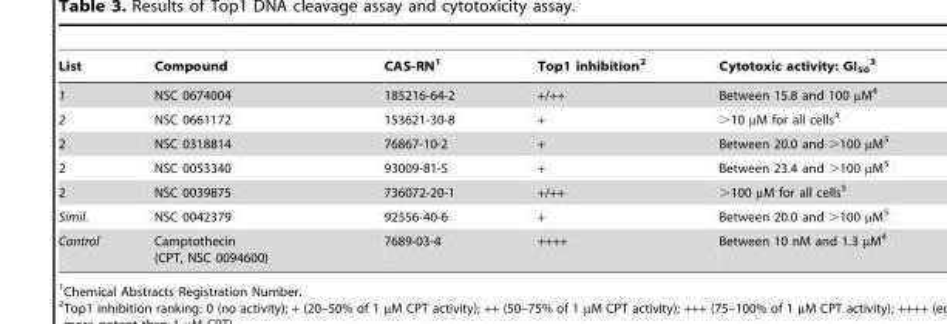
<table><thead><tr><td>List</td><td>Compound</td><td>CAS-RN<sup>1</sup></td><td>Top1 inhibition<sup>2</sup></td><td>Cytotoxic activity: GI<sub>50</sub> 3</td></tr></thead><tbody><tr><td>1</td><td>NSC 0674004</td><td>185216-64-2</td><td>+/++</td><td>Between 15.8 and 100 µM<sup>4</sup></td></tr><tr><td>2</td><td>NSC 0661172</td><td>153621-30-8</td><td>+</td><td>&gt;10 µM for all cells<sup>4</sup></td></tr><tr><td>2</td><td>NSC 0318814</td><td>76867-10-2</td><td>+</td><td>Between 20.0 and &gt;100 µM<sup>5</sup></td></tr><tr><td>2</td><td>NSC 0053340</td><td>93009-81-5</td><td>+</td><td>Between 23.4 and &gt;100 µM<sup>5</sup></td></tr><tr><td>2</td><td>NSC 0039875</td><td>736072-20-1</td><td>+/++</td><td>&gt;100 µM for all cells<sup>5</sup></td></tr><tr><td>Simil.</td><td>NSC 0042379</td><td>92556-40-6</td><td>+</td><td>Between 20.0 and &gt;100 µM<sup>5</sup></td></tr><tr><td>Control</td><td>Camptothecin (CPT, NSC 0094600)</td><td>7689-03-4</td><td>++++</td><td>Between 10 nM and 1.3 µM<sup>4</sup></td></tr></tbody></table>